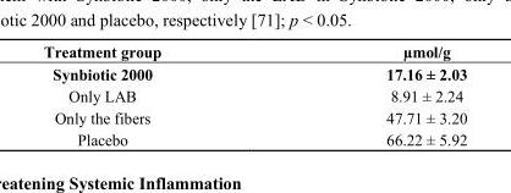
<table><thead><tr><td>Treatment group</td><td>µmol/g</td></tr></thead><tbody><tr><td>Synbiotic 2000</td><td>17.16 ± 2.03</td></tr><tr><td>Only LAB</td><td>8.91 ± 2.24</td></tr><tr><td>Only the fibers</td><td>47.71 ± 3.20</td></tr><tr><td>Placebo</td><td>66.22 ± 5.92</td></tr></tbody></table>